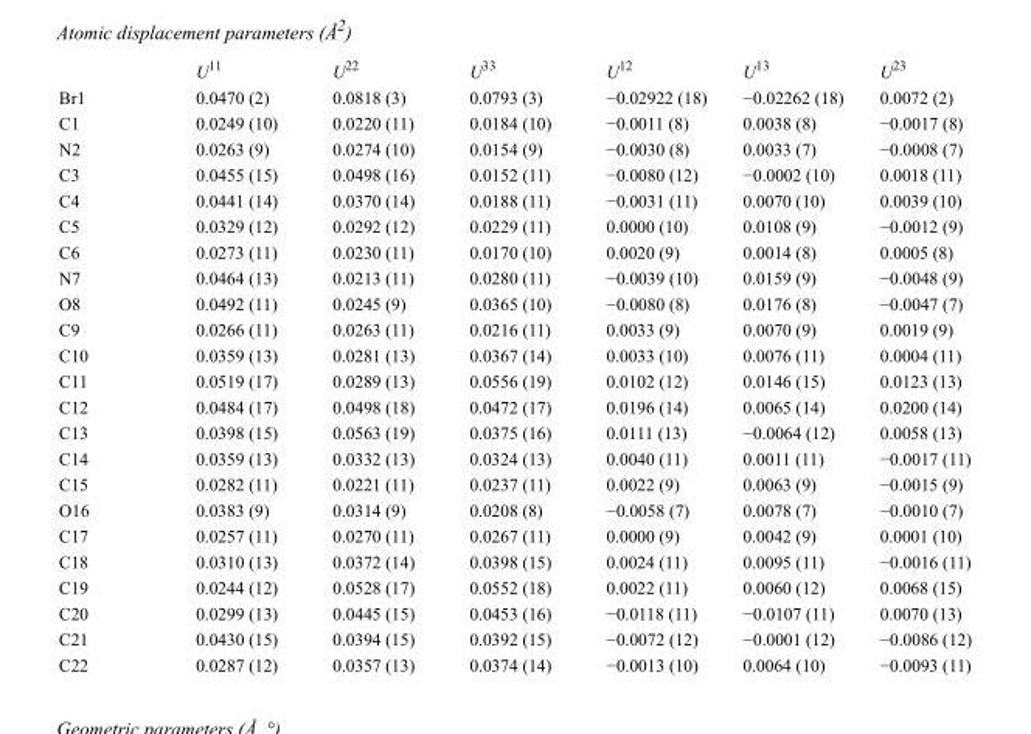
<table><thead><tr><td></td><td>U<sup>11</sup></td><td>U<sup>22</sup></td><td>U<sup>33</sup></td><td>U<sup>12</sup></td><td>U<sup>13</sup></td><td>U<sup>23</sup></td></tr></thead><tbody><tr><td>Br1</td><td>0.0470 (2)</td><td>0.0818 (3)</td><td>0.0793 (3)</td><td>−0.02922 (18)</td><td>−0.02262 (18)</td><td>0.0072 (2)</td></tr><tr><td>C1</td><td>0.0249 (10)</td><td>0.0220 (11)</td><td>0.0184 (10)</td><td>−0.0011 (8)</td><td>0.0038 (8)</td><td>−0.0017 (8)</td></tr><tr><td>N2</td><td>0.0263 (9)</td><td>0.0274 (10)</td><td>0.0154 (9)</td><td>−0.0030 (8)</td><td>0.0033 (7)</td><td>−0.0008 (7)</td></tr><tr><td>C3</td><td>0.0455 (15)</td><td>0.0498 (16)</td><td>0.0152 (11)</td><td>−0.0080 (12)</td><td>−0.0002 (10)</td><td>0.0018 (11)</td></tr><tr><td>C4</td><td>0.0441 (14)</td><td>0.0370 (14)</td><td>0.0188 (11)</td><td>−0.0031 (11)</td><td>0.0070 (10)</td><td>0.0039 (10)</td></tr><tr><td>C5</td><td>0.0329 (12)</td><td>0.0292 (12)</td><td>0.0229 (11)</td><td>0.0000 (10)</td><td>0.0108 (9)</td><td>−0.0012 (9)</td></tr><tr><td>C6</td><td>0.0273 (11)</td><td>0.0230 (11)</td><td>0.0170 (10)</td><td>0.0020 (9)</td><td>0.0014 (8)</td><td>0.0005 (8)</td></tr><tr><td>N7</td><td>0.0464 (13)</td><td>0.0213 (11)</td><td>0.0280 (11)</td><td>−0.0039 (10)</td><td>0.0159 (9)</td><td>−0.0048 (9)</td></tr><tr><td>O8</td><td>0.0492 (11)</td><td>0.0245 (9)</td><td>0.0365 (10)</td><td>−0.0080 (8)</td><td>0.0176 (8)</td><td>−0.0047 (7)</td></tr><tr><td>C9</td><td>0.0266 (11)</td><td>0.0263 (11)</td><td>0.0216 (11)</td><td>0.0033 (9)</td><td>0.0070 (9)</td><td>0.0019 (9)</td></tr><tr><td>C10</td><td>0.0359 (13)</td><td>0.0281 (13)</td><td>0.0367 (14)</td><td>0.0033 (10)</td><td>0.0076 (11)</td><td>0.0004 (11)</td></tr><tr><td>C11</td><td>0.0519 (17)</td><td>0.0289 (13)</td><td>0.0556 (19)</td><td>0.0102 (12)</td><td>0.0146 (15)</td><td>0.0123 (13)</td></tr><tr><td>C12</td><td>0.0484 (17)</td><td>0.0498 (18)</td><td>0.0472 (17)</td><td>0.0196 (14)</td><td>0.0065 (14)</td><td>0.0200 (14)</td></tr><tr><td>C13</td><td>0.0398 (15)</td><td>0.0563 (19)</td><td>0.0375 (16)</td><td>0.0111 (13)</td><td>−0.0064 (12)</td><td>0.0058 (13)</td></tr><tr><td>C14</td><td>0.0359 (13)</td><td>0.0332 (13)</td><td>0.0324 (13)</td><td>0.0040 (11)</td><td>0.0011 (11)</td><td>−0.0017 (11)</td></tr><tr><td>C15</td><td>0.0282 (11)</td><td>0.0221 (11)</td><td>0.0237 (11)</td><td>0.0022 (9)</td><td>0.0063 (9)</td><td>−0.0015 (9)</td></tr><tr><td>O16</td><td>0.0383 (9)</td><td>0.0314 (9)</td><td>0.0208 (8)</td><td>−0.0058 (7)</td><td>0.0078 (7)</td><td>−0.0010 (7)</td></tr><tr><td>C17</td><td>0.0257 (11)</td><td>0.0270 (11)</td><td>0.0267 (11)</td><td>0.0000 (9)</td><td>0.0042 (9)</td><td>0.0001 (10)</td></tr><tr><td>C18</td><td>0.0310 (13)</td><td>0.0372 (14)</td><td>0.0398 (15)</td><td>0.0024 (11)</td><td>0.0095 (11)</td><td>−0.0016 (11)</td></tr><tr><td>C19</td><td>0.0244 (12)</td><td>0.0528 (17)</td><td>0.0552 (18)</td><td>0.0022 (11)</td><td>0.0060 (12)</td><td>0.0068 (15)</td></tr><tr><td>C20</td><td>0.0299 (13)</td><td>0.0445 (15)</td><td>0.0453 (16)</td><td>−0.0118 (11)</td><td>−0.0107 (11)</td><td>0.0070 (13)</td></tr><tr><td>C21</td><td>0.0430 (15)</td><td>0.0394 (15)</td><td>0.0392 (15)</td><td>−0.0072 (12)</td><td>−0.0001 (12)</td><td>−0.0086 (12)</td></tr><tr><td>C22</td><td>0.0287 (12)</td><td>0.0357 (13)</td><td>0.0374 (14)</td><td>−0.0013 (10)</td><td>0.0064 (10)</td><td>−0.0093 (11)</td></tr></tbody></table>